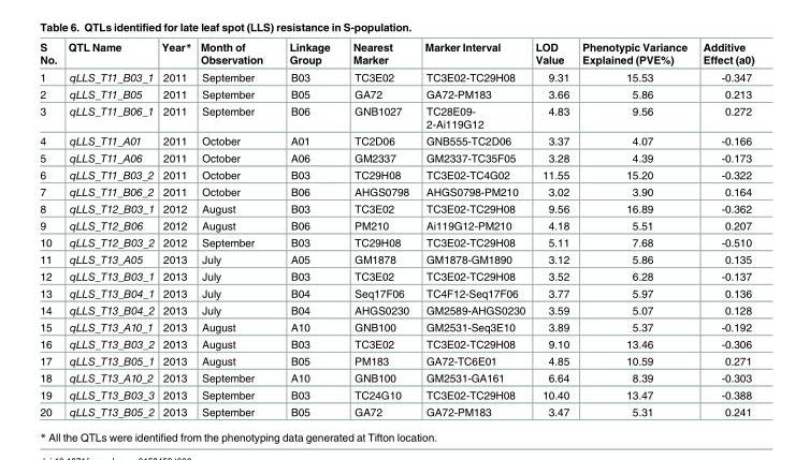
<table><thead><tr><td>S No.</td><td>QTL Name</td><td>Year*</td><td>Month of Observation</td><td>Linkage Group</td><td>Nearest Marker</td><td>Marker Interval</td><td>LOD Value</td><td>Phenotypic Variance Explained (PVE%)</td><td>Additive Effect (a0)</td></tr></thead><tbody><tr><td>1</td><td>qLLS_T11_B03_1</td><td>2011</td><td>September</td><td>B03</td><td>TC3E02</td><td>TC3E02-TC29H08</td><td>9.31</td><td>15.53</td><td>-0.347</td></tr><tr><td>2</td><td>qLLS_T11_B05</td><td>2011</td><td>September</td><td>B05</td><td>GA72</td><td>GA72-PM183</td><td>3.66</td><td>5.86</td><td>0.213</td></tr><tr><td>3</td><td>qLLS_T11_B06_1</td><td>2011</td><td>September</td><td>B06</td><td>GNB1027</td><td>TC28E09- 2-Ai119G12</td><td>4.83</td><td>9.56</td><td>0.272</td></tr><tr><td>4</td><td>qLLS_T11_A01</td><td>2011</td><td>October</td><td>A01</td><td>TC2D06</td><td>GNB555-TC2D06</td><td>3.37</td><td>4.07</td><td>-0.166</td></tr><tr><td>5</td><td>qLLS_T11_A06</td><td>2011</td><td>October</td><td>A06</td><td>GM2337</td><td>GM2337-TC35F05</td><td>3.28</td><td>4.39</td><td>-0.173</td></tr><tr><td>6</td><td>qLLS_T11_B03_2</td><td>2011</td><td>October</td><td>B03</td><td>TC29H08</td><td>TC3E02-TC4G02</td><td>11.55</td><td>15.20</td><td>-0.322</td></tr><tr><td>7</td><td>qLLS_T11_B06_2</td><td>2011</td><td>October</td><td>B06</td><td>AHGS0798</td><td>AHGS0798-PM210</td><td>3.02</td><td>3.90</td><td>0.164</td></tr><tr><td>8</td><td>qLLS_T12_B03_1</td><td>2012</td><td>August</td><td>B03</td><td>TC3E02</td><td>TC3E02-TC29H08</td><td>9.56</td><td>16.89</td><td>-0.362</td></tr><tr><td>9</td><td>qLLS_T12_B06</td><td>2012</td><td>August</td><td>B06</td><td>PM210</td><td>Ai119G12-PM210</td><td>4.18</td><td>5.51</td><td>0.207</td></tr><tr><td>10</td><td>qLLS_T12_B03_2</td><td>2012</td><td>September</td><td>B03</td><td>TC29H08</td><td>TC3E02-TC29H08</td><td>5.11</td><td>7.68</td><td>-0.510</td></tr><tr><td>11</td><td>qLLS_T13_A05</td><td>2013</td><td>July</td><td>A05</td><td>GM1878</td><td>GM1878-GM1890</td><td>3.12</td><td>5.86</td><td>0.135</td></tr><tr><td>12</td><td>qLLS_T13_B03_1</td><td>2013</td><td>July</td><td>B03</td><td>TC3E02</td><td>TC3E02-TC29H08</td><td>3.52</td><td>6.28</td><td>-0.137</td></tr><tr><td>13</td><td>qLLS_T13_B04_1</td><td>2013</td><td>July</td><td>B04</td><td>Seq17F06</td><td>TC4F12-Seq17F06</td><td>3.77</td><td>5.97</td><td>0.136</td></tr><tr><td>14</td><td>qLLS_T13_B04_2</td><td>2013</td><td>July</td><td>B04</td><td>AHGS0230</td><td>GM2589-AHGS0230</td><td>3.59</td><td>5.07</td><td>0.128</td></tr><tr><td>15</td><td>qLLS_T13_A10_1</td><td>2013</td><td>August</td><td>A10</td><td>GNB100</td><td>GM2531-Seq3E10</td><td>3.89</td><td>5.37</td><td>-0.192</td></tr><tr><td>16</td><td>qLLS_T13_B03_2</td><td>2013</td><td>August</td><td>B03</td><td>TC3E02</td><td>TC3E02-TC29H08</td><td>9.10</td><td>13.46</td><td>-0.306</td></tr><tr><td>17</td><td>qLLS_T13_B05_1</td><td>2013</td><td>August</td><td>B05</td><td>PM183</td><td>GA72-TC6E01</td><td>4.85</td><td>10.59</td><td>0.271</td></tr><tr><td>18</td><td>qLLS_T13_A10_2</td><td>2013</td><td>September</td><td>A10</td><td>GNB100</td><td>GM2531-GA161</td><td>6.64</td><td>8.39</td><td>-0.303</td></tr><tr><td>19</td><td>qLLS_T13_B03_3</td><td>2013</td><td>September</td><td>B03</td><td>TC24G10</td><td>TC3E02-TC29H08</td><td>10.40</td><td>13.47</td><td>-0.388</td></tr><tr><td>20</td><td>qLLS_T13_B05_2</td><td>2013</td><td>September</td><td>B05</td><td>GA72</td><td>GA72-PM183</td><td>3.47</td><td>5.31</td><td>0.241</td></tr></tbody></table>